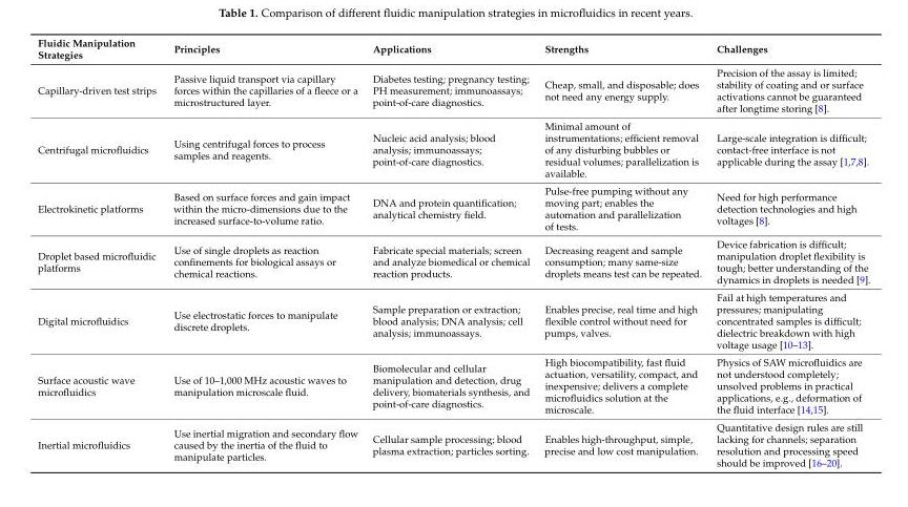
<table><thead><tr><td>Fluidic Manipulation Strategies</td><td>Principles</td><td>Applications</td><td>Strengths</td><td>Challenges</td></tr></thead><tbody><tr><td>Capillary-driven test strips</td><td>Passive liquid transport via capillary forces within the capillaries of a fleece or a microstructured layer.</td><td>Diabetes testing; pregnancy testing; PH measurement; immunoassays; point-of-care diagnostics.</td><td>Cheap, small, and disposable; does not need any energy supply.</td><td>Precision of the assay is limited; stability of coating and or surface activations cannot be guaranteed after longtime storing [8].</td></tr><tr><td>Centrifugal microfluidics</td><td>Using centrifugal forces to process samples and reagents.</td><td>Nucleic acid analysis; blood analysis; immunoassays; point-of-care diagnostics.</td><td>Minimal amount of instrumentations; efficient removal of any disturbing bubbles or residual volumes; parallelization is available.</td><td>Large-scale integration is difficult; contact-free interface is not applicable during the assay [1,7,8].</td></tr><tr><td>Electrokinetic platforms</td><td>Based on surface forces and gain impact within the micro-dimensions due to the increased surface-to-volume ratio.</td><td>DNA and protein quantification; analytical chemistry field.</td><td>Pulse-free pumping without any moving part; enables the automation and parallelization of tests.</td><td>Need for high performance detection technologies and high voltages [8].</td></tr><tr><td>Droplet based microfluidic platforms</td><td>Use of single droplets as reaction confinements for biological assays or chemical reactions.</td><td>Fabricate special materials; screen and analyze biomedical or chemical reaction products.</td><td>Decreasing reagent and sample consumption; many same-size droplets means test can be repeated.</td><td>Device fabrication is difficult; manipulation droplet flexibility is tough; better understanding of the dynamics in droplets is needed [9].</td></tr><tr><td>Digital microfluidics</td><td>Use electrostatic forces to manipulate discrete droplets.</td><td>Sample preparation or extraction; blood analysis; DNA analysis; cell analysis; immunoassays.</td><td>Enables precise, real time and high flexible control without need for pumps, valves.</td><td>Fail at high temperatures and pressures; manipulating concentrated samples is difficult; dielectric breakdown with high voltage usage [10–13].</td></tr><tr><td>Surface acoustic wave microfluidics</td><td>Use of 10–1,000 MHz acoustic waves to manipulation microscale fluid.</td><td>Biomolecular and cellular manipulation and detection, drug delivery, biomaterials synthesis, and point-of-care diagnostics.</td><td>High biocompatibility, fast fluid actuation, versatility, compact, and inexpensive; delivers a complete microfluidics solution at the microscale.</td><td>Physics of SAW microfluidics are not understood completely; unsolved problems in practical applications, e.g., deformation of the fluid interface [14,15].</td></tr><tr><td>Inertial microfluidics</td><td>Use inertial migration and secondary flow caused by the inertia of the fluid to manipulate particles.</td><td>Cellular sample processing; blood plasma extraction; particles sorting.</td><td>Enables high-throughput, simple, precise and low cost manipulation.</td><td>Quantitative design rules are still lacking for channels; separation resolution and processing speed should be improved [16–20].</td></tr></tbody></table>